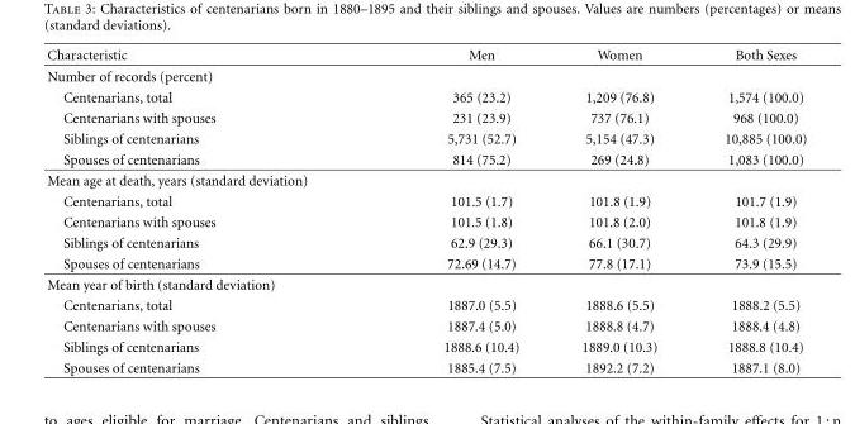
<table><thead><tr><td>Characteristic</td><td>Men</td><td>Women</td><td>Both Sexes</td></tr></thead><tbody><tr><td colspan="4">Number of records (percent)</td></tr><tr><td>Centenarians, total</td><td>365 (23.2)</td><td>1,209 (76.8)</td><td>1,574 (100.0)</td></tr><tr><td>Centenarians with spouses</td><td>231 (23.9)</td><td>737 (76.1)</td><td>968 (100.0)</td></tr><tr><td>Siblings of centenarians</td><td>5,731 (52.7)</td><td>5,154 (47.3)</td><td>10,885 (100.0)</td></tr><tr><td>Spouses of centenarians</td><td>814 (75.2)</td><td>269 (24.8)</td><td>1,083 (100.0)</td></tr><tr><td colspan="4">Mean age at death, years (standard deviation)</td></tr><tr><td>Centenarians, total</td><td>101.5 (1.7)</td><td>101.8 (1.9)</td><td>101.7 (1.9)</td></tr><tr><td>Centenarians with spouses</td><td>101.5 (1.8)</td><td>101.8 (2.0)</td><td>101.8 (1.9)</td></tr><tr><td>Siblings of centenarians</td><td>62.9 (29.3)</td><td>66.1 (30.7)</td><td>64.3 (29.9)</td></tr><tr><td>Spouses of centenarians</td><td>72.69 (14.7)</td><td>77.8 (17.1)</td><td>73.9 (15.5)</td></tr><tr><td colspan="4">Mean year of birth (standard deviation)</td></tr><tr><td>Centenarians, total</td><td>1887.0 (5.5)</td><td>1888.6 (5.5)</td><td>1888.2 (5.5)</td></tr><tr><td>Centenarians with spouses</td><td>1887.4 (5.0)</td><td>1888.8 (4.7)</td><td>1888.4 (4.8)</td></tr><tr><td>Siblings of centenarians</td><td>1888.6 (10.4)</td><td>1889.0 (10.3)</td><td>1888.8 (10.4)</td></tr><tr><td>Spouses of centenarians</td><td>1885.4 (7.5)</td><td>1892.2 (7.2)</td><td>1887.1 (8.0)</td></tr></tbody></table>